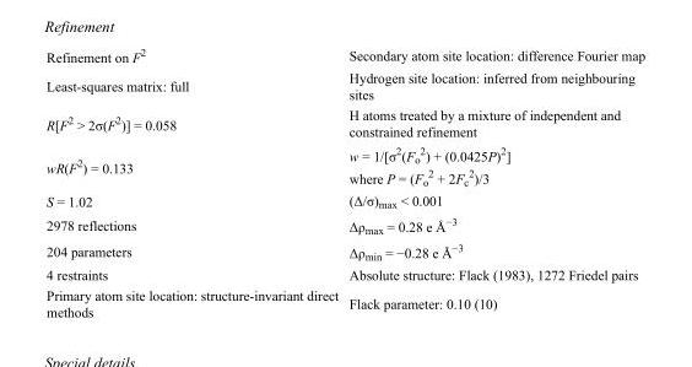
<table><tbody><tr><td>Refinement on F<sup>2</sup></td><td>Secondary atom site location: difference Fourier map</td></tr><tr><td>Least-squares matrix: full</td><td>Hydrogen site location: inferred from neighbouring sites</td></tr><tr><td>R[F<sup>2</sup> &gt; 2σ(F<sup>2</sup>)] = 0.058</td><td>H atoms treated by a mixture of independent and constrained refinement</td></tr><tr><td>wR(F<sup>2</sup>) = 0.133</td><td>w = 1/[σ<sup>2</sup>(F<sub>o</sub> <sup>2</sup>) + (0.0425P)<sup>2</sup>] where P = (F<sub>o</sub> <sup>2</sup> + 2F<sub>c</sub> <sup>2</sup>)/3</td></tr><tr><td>S = 1.02</td><td>(Δ/σ)<sub>max</sub> &lt; 0.001</td></tr><tr><td>2978 reflections</td><td>Δρ<sub>max</sub> = 0.28 e Å<sup>−3</sup></td></tr><tr><td>204 parameters</td><td>Δρ<sub>min</sub> = −0.28 e Å<sup>−3</sup></td></tr><tr><td>4 restraints</td><td>Absolute structure: Flack (1983), 1272 Friedel pairs</td></tr><tr><td>Primary atom site location: structure-invariant direct methods</td><td>Flack parameter: 0.10 (10)</td></tr></tbody></table>